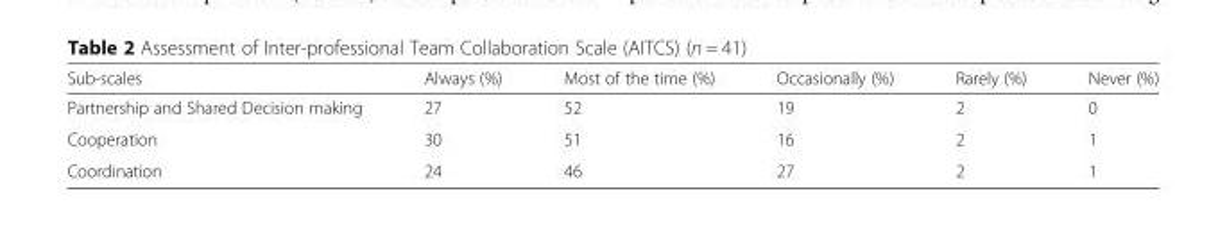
<table><thead><tr><td>Sub-scales</td><td>Always (%)</td><td>Most of the time (%)</td><td>Occasionally (%)</td><td>Rarely (%)</td><td>Never (%)</td></tr></thead><tbody><tr><td>Partnership and Shared Decision making</td><td>27</td><td>52</td><td>19</td><td>2</td><td>0</td></tr><tr><td>Cooperation</td><td>30</td><td>51</td><td>16</td><td>2</td><td>1</td></tr><tr><td>Coordination</td><td>24</td><td>46</td><td>27</td><td>2</td><td>1</td></tr></tbody></table>